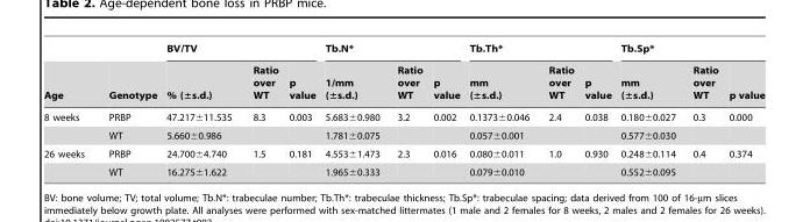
<table><thead><tr><td rowspan="2">Age</td><td rowspan="2">Genotype</td><td colspan="3">BV/TV</td><td colspan="3">Tb.N*</td><td colspan="3">Tb.Th*</td><td colspan="3">Tb.Sp*</td></tr><tr><td>% (±s.d.)</td><td>Ratio over WT</td><td>p value</td><td>1/mm (±s.d.)</td><td>Ratio over WT</td><td>p value</td><td>mm (±s.d.)</td><td>Ratio over WT</td><td>p value</td><td>mm (±s.d.)</td><td>Ratio over WT</td><td>p value</td></tr></thead><tbody><tr><td rowspan="2">8 weeks</td><td>PRBP</td><td>47.217±11.535</td><td>8.3</td><td>0.003</td><td>5.683±0.980</td><td>3.2</td><td>0.002</td><td>0.1373±0.046</td><td>2.4</td><td>0.038</td><td>0.180±0.027</td><td>0.3</td><td>0.000</td></tr><tr><td>WT</td><td>5.660±0.986</td><td></td><td></td><td>1.781±0.075</td><td></td><td></td><td>0.057±0.001</td><td></td><td></td><td>0.577±0.030</td><td></td><td></td></tr><tr><td rowspan="2">26 weeks</td><td>PRBP</td><td>24.700±4.740</td><td>1.5</td><td>0.181</td><td>4.553±1.473</td><td>2.3</td><td>0.016</td><td>0.080±0.011</td><td>1.0</td><td>0.930</td><td>0.248±0.114</td><td>0.4</td><td>0.374</td></tr><tr><td>WT</td><td>16.275±1.622</td><td></td><td></td><td>1.965±0.333</td><td></td><td></td><td>0.079±0.010</td><td></td><td></td><td>0.552±0.095</td><td></td><td></td></tr></tbody></table>